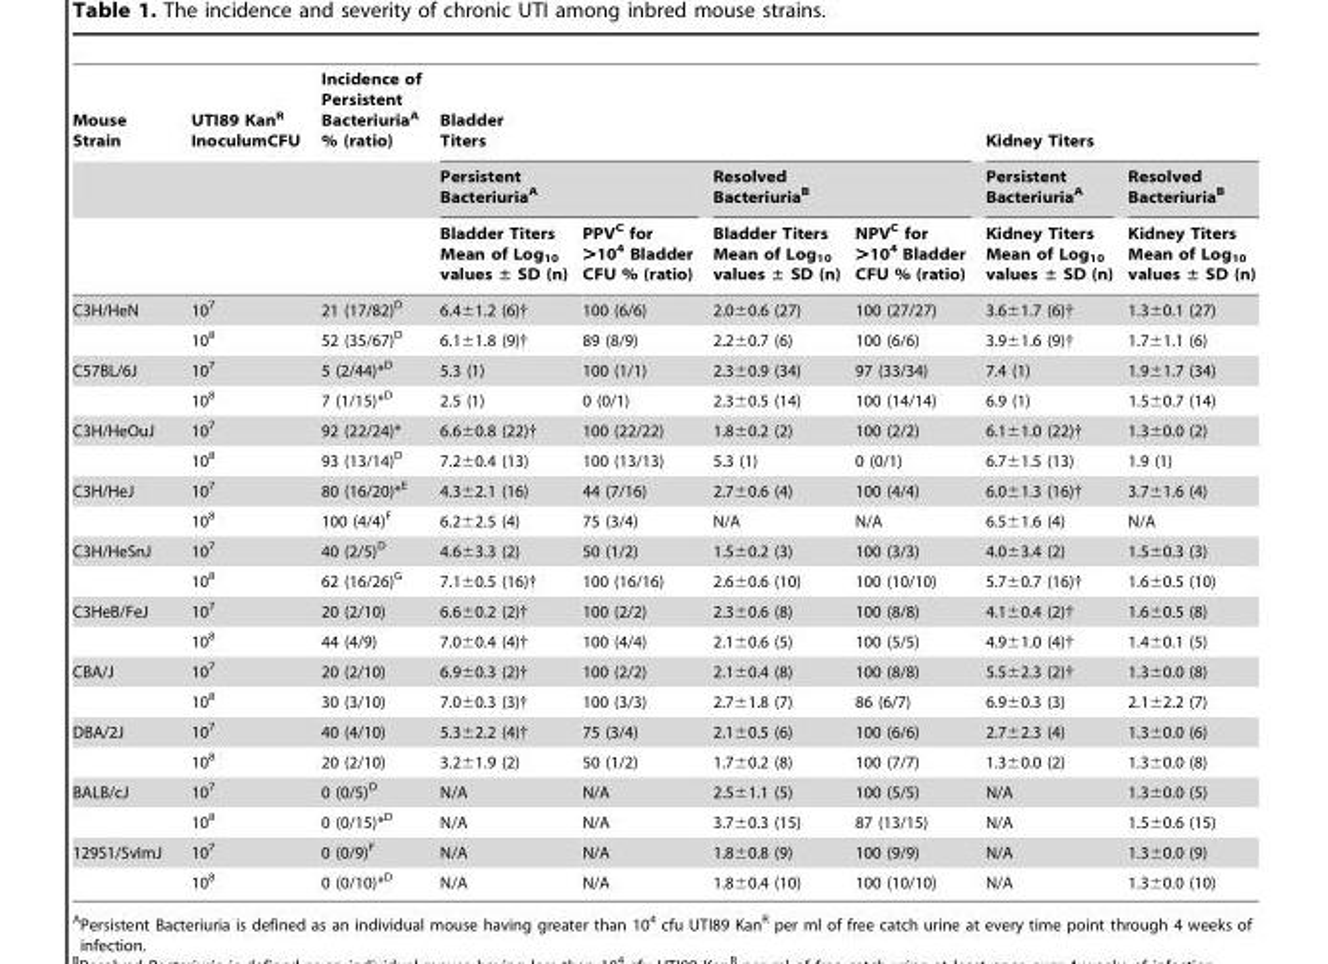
<table><thead><tr><td rowspan="3">Mouse Strain</td><td rowspan="3">UTI89 Kan<sup>R</sup> InoculumCFU</td><td rowspan="3">Incidence of Persistent Bacteriuria<sup>A</sup> % (ratio)</td><td colspan="4">Bladder Titers</td><td colspan="2">Kidney Titers</td></tr><tr><td colspan="2">Persistent Bacteriuria<sup>A</sup></td><td colspan="2">Resolved Bacteriuria<sup>B</sup></td><td rowspan="2">Persistent Bacteriuria<sup>A</sup> Kidney Titers Mean of Log<sub>10</sub> values ± SD (n)</td><td rowspan="2">Resolved Bacteriuria<sup>B</sup> Kidney Titers Mean of Log<sub>10</sub> values ± SD (n)</td></tr><tr><td>Bladder Titers Mean of Log<sub>10</sub> values ± SD (n)</td><td>PPV<sup>C</sup> for &gt;10<sup>4</sup> Bladder CFU % (ratio)</td><td>Bladder Titers Mean of Log<sub>10</sub> values ± SD (n)</td><td>NPV<sup>C</sup> for &gt;10<sup>4</sup> Bladder CFU % (ratio)</td></tr></thead><tbody><tr><td rowspan="2">C3H/HeN</td><td>10<sup>7</sup></td><td>21 (17/82)<sup>D</sup></td><td>6.4±1.2 (6)†</td><td>100 (6/6)</td><td>2.0±0.6 (27)</td><td>100 (27/27)</td><td>3.6±1.7 (6)†</td><td>1.3±0.1 (27)</td></tr><tr><td>10<sup>8</sup></td><td>52 (35/67)<sup>D</sup></td><td>6.1±1.8 (9)†</td><td>89 (8/9)</td><td>2.2±0.7 (6)</td><td>100 (6/6)</td><td>3.9±1.6 (9)†</td><td>1.7±1.1 (6)</td></tr><tr><td rowspan="2">C57BL/6J</td><td>10<sup>7</sup></td><td>5 (2/44)*D</td><td>5.3 (1)</td><td>100 (1/1)</td><td>2.3±0.9 (34)</td><td>97 (33/34)</td><td>7.4 (1)</td><td>1.9±1.7 (34)</td></tr><tr><td>10<sup>8</sup></td><td>7 (1/15)*D</td><td>2.5 (1)</td><td>0 (0/1)</td><td>2.3±0.5 (14)</td><td>100 (14/14)</td><td>6.9 (1)</td><td>1.5±0.7 (14)</td></tr><tr><td rowspan="2">C3H/HeOuJ</td><td>10<sup>7</sup></td><td>92 (22/24)*</td><td>6.6±0.8 (22)†</td><td>100 (22/22)</td><td>1.8±0.2 (2)</td><td>100 (2/2)</td><td>6.1±1.0 (22)†</td><td>1.3±0.0 (2)</td></tr><tr><td>10<sup>8</sup></td><td>93 (13/14)<sup>D</sup></td><td>7.2±0.4 (13)</td><td>100 (13/13)</td><td>5.3 (1)</td><td>0 (0/1)</td><td>6.7±1.5 (13)</td><td>1.9 (1)</td></tr><tr><td rowspan="2">C3H/HeJ</td><td>10<sup>7</sup></td><td>80 (16/20)*E</td><td>4.3±2.1 (16)</td><td>44 (7/16)</td><td>2.7±0.6 (4)</td><td>100 (4/4)</td><td>6.0±1.3 (16)†</td><td>3.7±1.6 (4)</td></tr><tr><td>10<sup>8</sup></td><td>100 (4/4)<sup>F</sup></td><td>6.2±2.5 (4)</td><td>75 (3/4)</td><td>N/A</td><td>N/A</td><td>6.5±1.6 (4)</td><td>N/A</td></tr><tr><td rowspan="2">C3H/HeSnJ</td><td>10<sup>7</sup></td><td>40 (2/5)<sup>D</sup></td><td>4.6±3.3 (2)</td><td>50 (1/2)</td><td>1.5±0.2 (3)</td><td>100 (3/3)</td><td>4.0±3.4 (2)</td><td>1.5±0.3 (3)</td></tr><tr><td>10<sup>8</sup></td><td>62 (16/26)<sup>G</sup></td><td>7.1±0.5 (16)†</td><td>100 (16/16)</td><td>2.6±0.6 (10)</td><td>100 (10/10)</td><td>5.7±0.7 (16)†</td><td>1.6±0.5 (10)</td></tr><tr><td rowspan="2">C3HeB/FeJ</td><td>10<sup>7</sup></td><td>20 (2/10)</td><td>6.6±0.2 (2)†</td><td>100 (2/2)</td><td>2.3±0.6 (8)</td><td>100 (8/8)</td><td>4.1±0.4 (2)†</td><td>1.6±0.5 (8)</td></tr><tr><td>10<sup>8</sup></td><td>44 (4/9)</td><td>7.0±0.4 (4)†</td><td>100 (4/4)</td><td>2.1±0.6 (5)</td><td>100 (5/5)</td><td>4.9±1.0 (4)†</td><td>1.4±0.1 (5)</td></tr><tr><td rowspan="2">CBA/J</td><td>10<sup>7</sup></td><td>20 (2/10)</td><td>6.9±0.3 (2)†</td><td>100 (2/2)</td><td>2.1±0.4 (8)</td><td>100 (8/8)</td><td>5.5±2.3 (2)†</td><td>1.3±0.0 (8)</td></tr><tr><td>10<sup>8</sup></td><td>30 (3/10)</td><td>7.0±0.3 (3)†</td><td>100 (3/3)</td><td>2.7±1.8 (7)</td><td>86 (6/7)</td><td>6.9±0.3 (3)</td><td>2.1±2.2 (7)</td></tr><tr><td rowspan="2">DBA/2J</td><td>10<sup>7</sup></td><td>40 (4/10)</td><td>5.3±2.2 (4)†</td><td>75 (3/4)</td><td>2.1±0.5 (6)</td><td>100 (6/6)</td><td>2.7±2.3 (4)</td><td>1.3±0.0 (6)</td></tr><tr><td>10<sup>8</sup></td><td>20 (2/10)</td><td>3.2±1.9 (2)</td><td>50 (1/2)</td><td>1.7±0.2 (8)</td><td>100 (7/7)</td><td>1.3±0.0 (2)</td><td>1.3±0.0 (8)</td></tr><tr><td rowspan="2">BALB/cJ</td><td>10<sup>7</sup></td><td>0 (0/5)<sup>D</sup></td><td>N/A</td><td>N/A</td><td>2.5±1.1 (5)</td><td>100 (5/5)</td><td>N/A</td><td>1.3±0.0 (5)</td></tr><tr><td>10<sup>8</sup></td><td>0 (0/15)*D</td><td>N/A</td><td>N/A</td><td>3.7±0.3 (15)</td><td>87 (13/15)</td><td>N/A</td><td>1.5±0.6 (15)</td></tr><tr><td rowspan="2">129S1/SvImJ</td><td>10<sup>7</sup></td><td>0 (0/9)<sup>F</sup></td><td>N/A</td><td>N/A</td><td>1.8±0.8 (9)</td><td>100 (9/9)</td><td>N/A</td><td>1.3±0.0 (9)</td></tr><tr><td>10<sup>8</sup></td><td>0 (0/10)*D</td><td>N/A</td><td>N/A</td><td>1.8±0.4 (10)</td><td>100 (10/10)</td><td>N/A</td><td>1.3±0.0 (10)</td></tr></tbody></table>